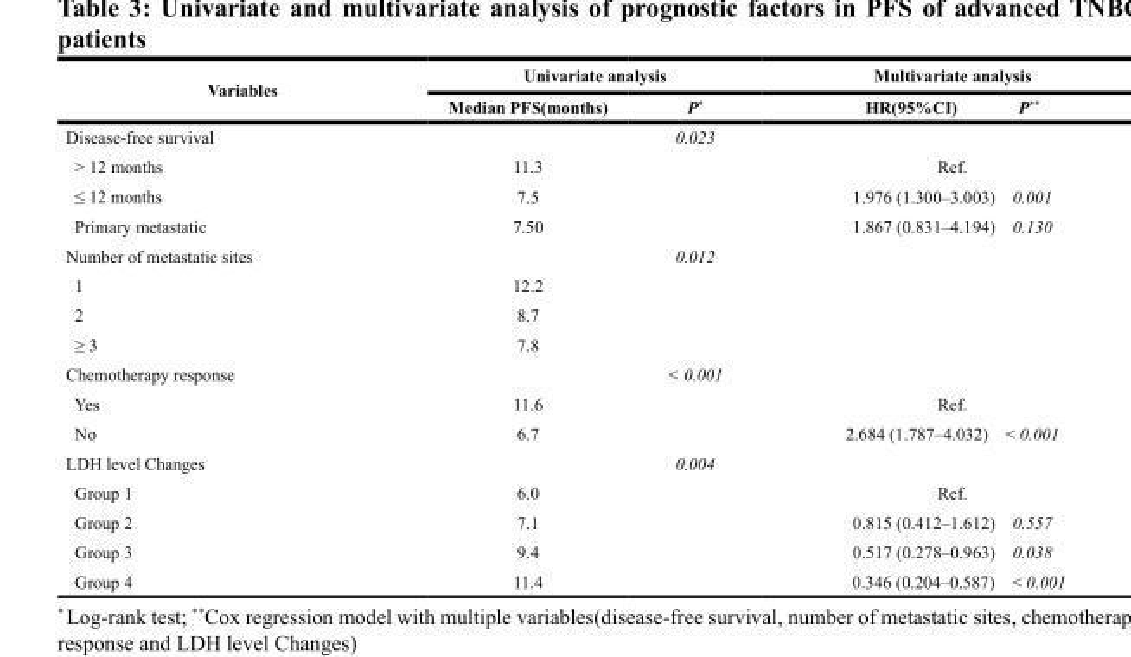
<table><thead><tr><td rowspan="2">Variables</td><td colspan="2">Univariate analysis</td><td colspan="2">Multivariate analysis</td></tr><tr><td>Median PFS(months)</td><td>P*</td><td>HR(95%CI)</td><td>P**</td></tr></thead><tbody><tr><td>Disease-free survival</td><td></td><td>0.023</td><td></td><td></td></tr><tr><td>&gt; 12 months</td><td>11.3</td><td></td><td>Ref.</td><td></td></tr><tr><td>≤ 12 months</td><td>7.5</td><td></td><td>1.976 (1.300–3.003)</td><td>0.001</td></tr><tr><td>Primary metastatic</td><td>7.50</td><td></td><td>1.867 (0.831–4.194)</td><td>0.130</td></tr><tr><td>Number of metastatic sites</td><td></td><td>0.012</td><td></td><td></td></tr><tr><td>1</td><td>12.2</td><td></td><td></td><td></td></tr><tr><td>2</td><td>8.7</td><td></td><td></td><td></td></tr><tr><td>≥ 3</td><td>7.8</td><td></td><td></td><td></td></tr><tr><td>Chemotherapy response</td><td></td><td>&lt; 0.001</td><td></td><td></td></tr><tr><td>Yes</td><td>11.6</td><td></td><td>Ref.</td><td></td></tr><tr><td>No</td><td>6.7</td><td></td><td>2.684 (1.787–4.032)</td><td>&lt; 0.001</td></tr><tr><td>LDH level Changes</td><td></td><td>0.004</td><td></td><td></td></tr><tr><td>Group 1</td><td>6.0</td><td></td><td>Ref.</td><td></td></tr><tr><td>Group 2</td><td>7.1</td><td></td><td>0.815 (0.412–1.612)</td><td>0.557</td></tr><tr><td>Group 3</td><td>9.4</td><td></td><td>0.517 (0.278–0.963)</td><td>0.038</td></tr><tr><td>Group 4</td><td>11.4</td><td></td><td>0.346 (0.204–0.587)</td><td>&lt; 0.001</td></tr></tbody></table>